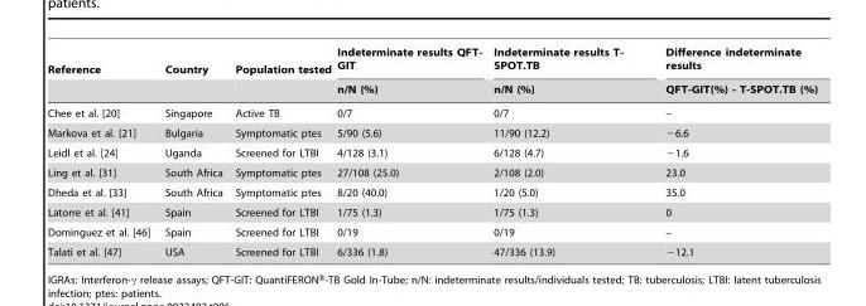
<table><thead><tr><td rowspan="2">Reference</td><td rowspan="2">Country</td><td rowspan="2">Population tested</td><td rowspan="2">Indeterminate results QFT- GIT n/N (%)</td><td rowspan="2">Indeterminate results T- SPOT.TB n/N (%)</td><td rowspan="2">Difference indeterminate results QFT-GIT(%) - T-SPOT.TB (%)</td></tr><tr></tr></thead><tbody><tr><td>Chee et al. [20]</td><td>Singapore</td><td>Active TB</td><td>0/7</td><td>0/7</td><td>–</td></tr><tr><td>Markova et al. [21]</td><td>Bulgaria</td><td>Symptomatic ptes</td><td>5/90 (5.6)</td><td>11/90 (12.2)</td><td>−6.6</td></tr><tr><td>Leidl et al. [24]</td><td>Uganda</td><td>Screened for LTBI</td><td>4/128 (3.1)</td><td>6/128 (4.7)</td><td>−1.6</td></tr><tr><td>Ling et al. [31]</td><td>South Africa</td><td>Symptomatic ptes</td><td>27/108 (25.0)</td><td>2/108 (2.0)</td><td>23.0</td></tr><tr><td>Dheda et al. [33]</td><td>South Africa</td><td>Symptomatic ptes</td><td>8/20 (40.0)</td><td>1/20 (5.0)</td><td>35.0</td></tr><tr><td>Latorre et al. [41]</td><td>Spain</td><td>Screened for LTBI</td><td>1/75 (1.3)</td><td>1/75 (1.3)</td><td>0</td></tr><tr><td>Dominguez et al. [46]</td><td>Spain</td><td>Screened for LTBI</td><td>0/19</td><td>0/19</td><td>–</td></tr><tr><td>Talati et al. [47]</td><td>USA</td><td>Screened for LTBI</td><td>6/336 (1.8)</td><td>47/336 (13.9)</td><td>−12.1</td></tr></tbody></table>